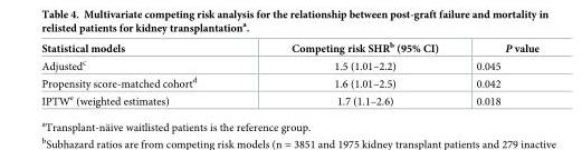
<table><thead><tr><td>Statistical models</td><td>Competing risk SHR<sup>b</sup> (95% CI)</td><td>P value</td></tr></thead><tbody><tr><td>Adjusted<sup>c</sup></td><td>1.5 (1.01–2.2)</td><td>0.045</td></tr><tr><td>Propensity score-matched cohort<sup>d</sup></td><td>1.6 (1.01–2.5)</td><td>0.042</td></tr><tr><td>IPTW<sup>e</sup> (weighted estimates)</td><td>1.7 (1.1–2.6)</td><td>0.018</td></tr></tbody></table>